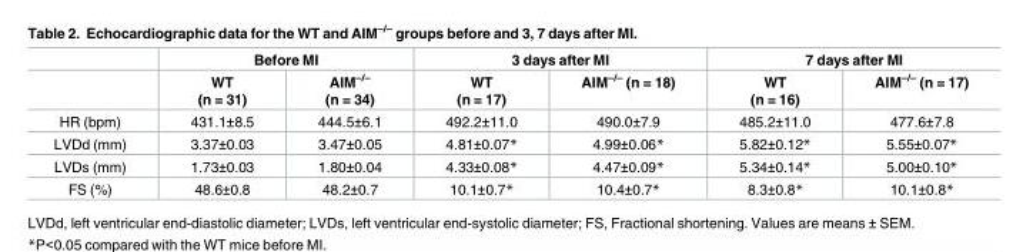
<table><thead><tr><td rowspan="2"></td><td colspan="2">Before MI</td><td colspan="2">3 days after MI</td><td colspan="2">7 days after MI</td></tr><tr><td>WT (n = 31)</td><td>AIM<sup>–/–</sup> (n = 34)</td><td>WT (n = 17)</td><td>AIM<sup>–/–</sup> (n = 18)</td><td>WT (n = 16)</td><td>AIM<sup>–/–</sup> (n = 17)</td></tr></thead><tbody><tr><td>HR (bpm)</td><td>431.1±8.5</td><td>444.5±6.1</td><td>492.2±11.0</td><td>490.0±7.9</td><td>485.2±11.0</td><td>477.6±7.8</td></tr><tr><td>LVDd (mm)</td><td>3.37±0.03</td><td>3.47±0.05</td><td>4.81±0.07*</td><td>4.99±0.06*</td><td>5.82±0.12*</td><td>5.55±0.07*</td></tr><tr><td>LVDs (mm)</td><td>1.73±0.03</td><td>1.80±0.04</td><td>4.33±0.08*</td><td>4.47±0.09*</td><td>5.34±0.14*</td><td>5.00±0.10*</td></tr><tr><td>FS (%)</td><td>48.6±0.8</td><td>48.2±0.7</td><td>10.1±0.7*</td><td>10.4±0.7*</td><td>8.3±0.8*</td><td>10.1±0.8*</td></tr></tbody></table>